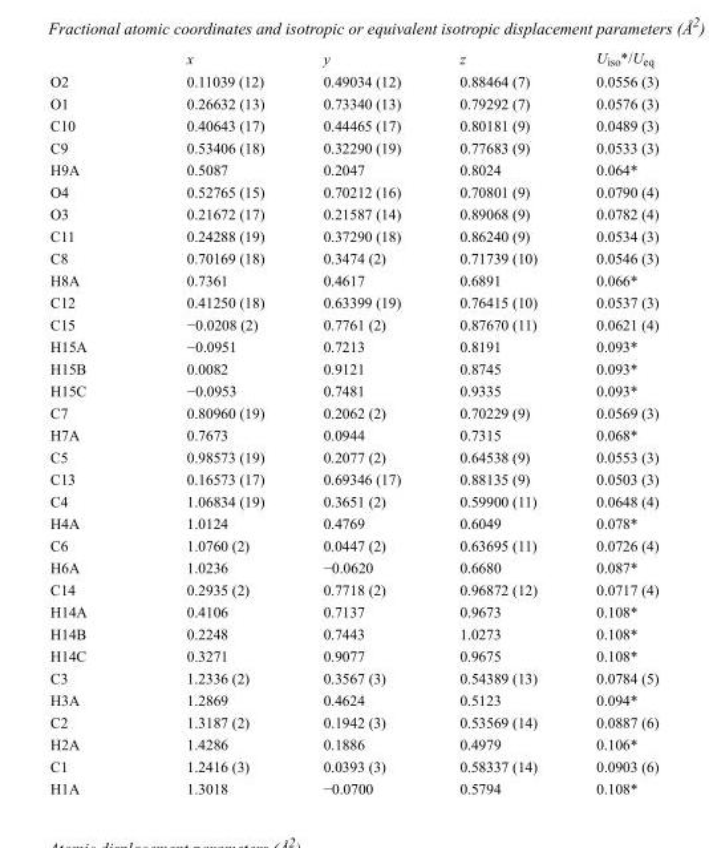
<table><thead><tr><td></td><td>x</td><td>y</td><td>z</td><td>U<sub>iso</sub>*/U<sub>eq</sub></td></tr></thead><tbody><tr><td>O2</td><td>0.11039 (12)</td><td>0.49034 (12)</td><td>0.88464 (7)</td><td>0.0556 (3)</td></tr><tr><td>O1</td><td>0.26632 (13)</td><td>0.73340 (13)</td><td>0.79292 (7)</td><td>0.0576 (3)</td></tr><tr><td>C10</td><td>0.40643 (17)</td><td>0.44465 (17)</td><td>0.80181 (9)</td><td>0.0489 (3)</td></tr><tr><td>C9</td><td>0.53406 (18)</td><td>0.32290 (19)</td><td>0.77683 (9)</td><td>0.0533 (3)</td></tr><tr><td>H9A</td><td>0.5087</td><td>0.2047</td><td>0.8024</td><td>0.064*</td></tr><tr><td>O4</td><td>0.52765 (15)</td><td>0.70212 (16)</td><td>0.70801 (9)</td><td>0.0790 (4)</td></tr><tr><td>O3</td><td>0.21672 (17)</td><td>0.21587 (14)</td><td>0.89068 (9)</td><td>0.0782 (4)</td></tr><tr><td>C11</td><td>0.24288 (19)</td><td>0.37290 (18)</td><td>0.86240 (9)</td><td>0.0534 (3)</td></tr><tr><td>C8</td><td>0.70169 (18)</td><td>0.3474 (2)</td><td>0.71739 (10)</td><td>0.0546 (3)</td></tr><tr><td>H8A</td><td>0.7361</td><td>0.4617</td><td>0.6891</td><td>0.066*</td></tr><tr><td>C12</td><td>0.41250 (18)</td><td>0.63399 (19)</td><td>0.76415 (10)</td><td>0.0537 (3)</td></tr><tr><td>C15</td><td>−0.0208 (2)</td><td>0.7761 (2)</td><td>0.87670 (11)</td><td>0.0621 (4)</td></tr><tr><td>H15A</td><td>−0.0951</td><td>0.7213</td><td>0.8191</td><td>0.093*</td></tr><tr><td>H15B</td><td>0.0082</td><td>0.9121</td><td>0.8745</td><td>0.093*</td></tr><tr><td>H15C</td><td>−0.0953</td><td>0.7481</td><td>0.9335</td><td>0.093*</td></tr><tr><td>C7</td><td>0.80960 (19)</td><td>0.2062 (2)</td><td>0.70229 (9)</td><td>0.0569 (3)</td></tr><tr><td>H7A</td><td>0.7673</td><td>0.0944</td><td>0.7315</td><td>0.068*</td></tr><tr><td>C5</td><td>0.98573 (19)</td><td>0.2077 (2)</td><td>0.64538 (9)</td><td>0.0553 (3)</td></tr><tr><td>C13</td><td>0.16573 (17)</td><td>0.69346 (17)</td><td>0.88135 (9)</td><td>0.0503 (3)</td></tr><tr><td>C4</td><td>1.06834 (19)</td><td>0.3651 (2)</td><td>0.59900 (11)</td><td>0.0648 (4)</td></tr><tr><td>H4A</td><td>1.0124</td><td>0.4769</td><td>0.6049</td><td>0.078*</td></tr><tr><td>C6</td><td>1.0760 (2)</td><td>0.0447 (2)</td><td>0.63695 (11)</td><td>0.0726 (4)</td></tr><tr><td>H6A</td><td>1.0236</td><td>−0.0620</td><td>0.6680</td><td>0.087*</td></tr><tr><td>C14</td><td>0.2935 (2)</td><td>0.7718 (2)</td><td>0.96872 (12)</td><td>0.0717 (4)</td></tr><tr><td>H14A</td><td>0.4106</td><td>0.7137</td><td>0.9673</td><td>0.108*</td></tr><tr><td>H14B</td><td>0.2248</td><td>0.7443</td><td>1.0273</td><td>0.108*</td></tr><tr><td>H14C</td><td>0.3271</td><td>0.9077</td><td>0.9675</td><td>0.108*</td></tr><tr><td>C3</td><td>1.2336 (2)</td><td>0.3567 (3)</td><td>0.54389 (13)</td><td>0.0784 (5)</td></tr><tr><td>H3A</td><td>1.2869</td><td>0.4624</td><td>0.5123</td><td>0.094*</td></tr><tr><td>C2</td><td>1.3187 (2)</td><td>0.1942 (3)</td><td>0.53569 (14)</td><td>0.0887 (6)</td></tr><tr><td>H2A</td><td>1.4286</td><td>0.1886</td><td>0.4979</td><td>0.106*</td></tr><tr><td>C1</td><td>1.2416 (3)</td><td>0.0393 (3)</td><td>0.58337 (14)</td><td>0.0903 (6)</td></tr><tr><td>H1A</td><td>1.3018</td><td>−0.0700</td><td>0.5794</td><td>0.108*</td></tr></tbody></table>